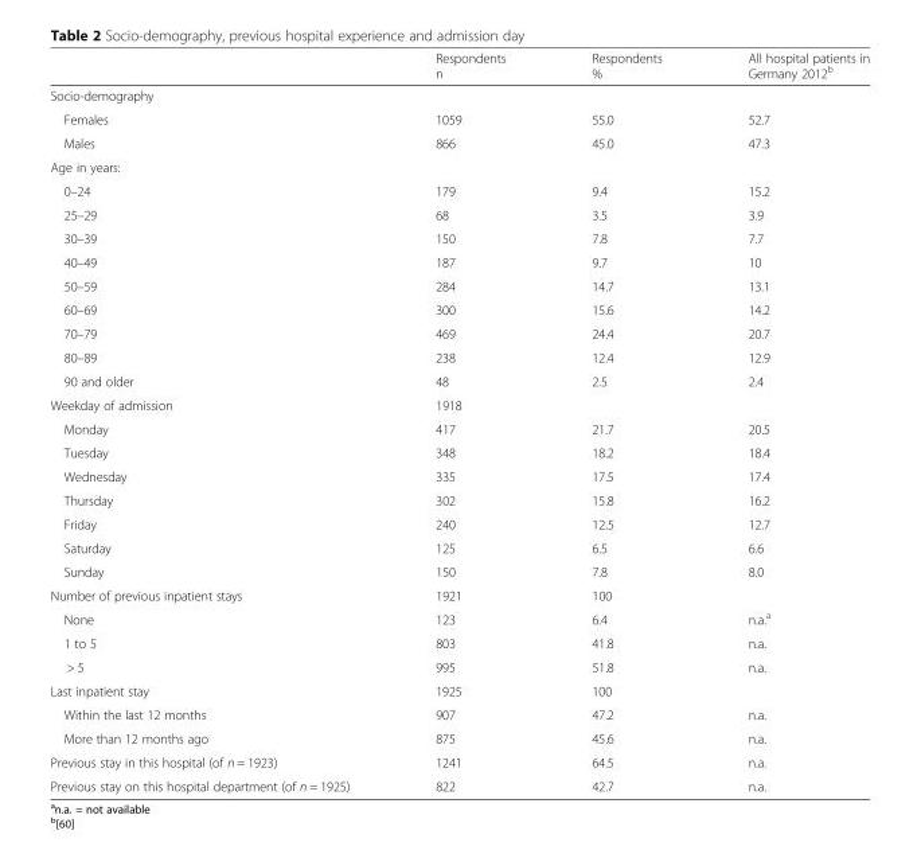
<table><thead><tr><td></td><td>Respondents n</td><td>Respondents %</td><td>All hospital patients in Germany 2012<sup>b</sup></td></tr></thead><tbody><tr><td colspan="4">Socio-demography</td></tr><tr><td>Females</td><td>1059</td><td>55.0</td><td>52.7</td></tr><tr><td>Males</td><td>866</td><td>45.0</td><td>47.3</td></tr><tr><td colspan="4">Age in years:</td></tr><tr><td>0–24</td><td>179</td><td>9.4</td><td>15.2</td></tr><tr><td>25–29</td><td>68</td><td>3.5</td><td>3.9</td></tr><tr><td>30–39</td><td>150</td><td>7.8</td><td>7.7</td></tr><tr><td>40–49</td><td>187</td><td>9.7</td><td>10</td></tr><tr><td>50–59</td><td>284</td><td>14.7</td><td>13.1</td></tr><tr><td>60–69</td><td>300</td><td>15.6</td><td>14.2</td></tr><tr><td>70–79</td><td>469</td><td>24.4</td><td>20.7</td></tr><tr><td>80–89</td><td>238</td><td>12.4</td><td>12.9</td></tr><tr><td>90 and older</td><td>48</td><td>2.5</td><td>2.4</td></tr><tr><td>Weekday of admission</td><td>1918</td><td></td><td></td></tr><tr><td>Monday</td><td>417</td><td>21.7</td><td>20.5</td></tr><tr><td>Tuesday</td><td>348</td><td>18.2</td><td>18.4</td></tr><tr><td>Wednesday</td><td>335</td><td>17.5</td><td>17.4</td></tr><tr><td>Thursday</td><td>302</td><td>15.8</td><td>16.2</td></tr><tr><td>Friday</td><td>240</td><td>12.5</td><td>12.7</td></tr><tr><td>Saturday</td><td>125</td><td>6.5</td><td>6.6</td></tr><tr><td>Sunday</td><td>150</td><td>7.8</td><td>8.0</td></tr><tr><td>Number of previous inpatient stays</td><td>1921</td><td>100</td><td></td></tr><tr><td>None</td><td>123</td><td>6.4</td><td>n.a.<sup>a</sup></td></tr><tr><td>1 to 5</td><td>803</td><td>41.8</td><td>n.a.</td></tr><tr><td>&gt; 5</td><td>995</td><td>51.8</td><td>n.a.</td></tr><tr><td>Last inpatient stay</td><td>1925</td><td>100</td><td></td></tr><tr><td>Within the last 12 months</td><td>907</td><td>47.2</td><td>n.a.</td></tr><tr><td>More than 12 months ago</td><td>875</td><td>45.6</td><td>n.a.</td></tr><tr><td>Previous stay in this hospital (of n = 1923)</td><td>1241</td><td>64.5</td><td>n.a.</td></tr><tr><td>Previous stay on this hospital department (of n = 1925)</td><td>822</td><td>42.7</td><td>n.a.</td></tr></tbody></table>